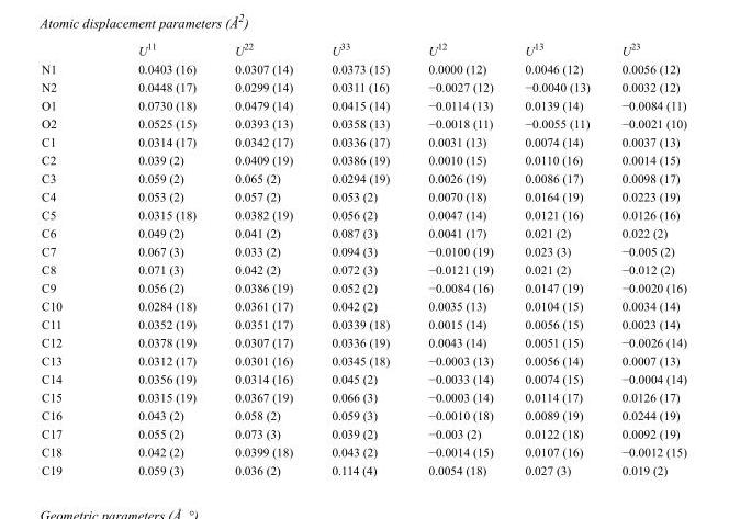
<table><thead><tr><td></td><td>U<sup>11</sup></td><td>U<sup>22</sup></td><td>U<sup>33</sup></td><td>U<sup>12</sup></td><td>U<sup>13</sup></td><td>U<sup>23</sup></td></tr></thead><tbody><tr><td>N1</td><td>0.0403 (16)</td><td>0.0307 (14)</td><td>0.0373 (15)</td><td>0.0000 (12)</td><td>0.0046 (12)</td><td>0.0056 (12)</td></tr><tr><td>N2</td><td>0.0448 (17)</td><td>0.0299 (14)</td><td>0.0311 (16)</td><td>−0.0027 (12)</td><td>−0.0040 (13)</td><td>0.0032 (12)</td></tr><tr><td>O1</td><td>0.0730 (18)</td><td>0.0479 (14)</td><td>0.0415 (14)</td><td>−0.0114 (13)</td><td>0.0139 (14)</td><td>−0.0084 (11)</td></tr><tr><td>O2</td><td>0.0525 (15)</td><td>0.0393 (13)</td><td>0.0358 (13)</td><td>−0.0018 (11)</td><td>−0.0055 (11)</td><td>−0.0021 (10)</td></tr><tr><td>C1</td><td>0.0314 (17)</td><td>0.0342 (17)</td><td>0.0336 (17)</td><td>0.0031 (13)</td><td>0.0074 (14)</td><td>0.0037 (13)</td></tr><tr><td>C2</td><td>0.039 (2)</td><td>0.0409 (19)</td><td>0.0386 (19)</td><td>0.0010 (15)</td><td>0.0110 (16)</td><td>0.0014 (15)</td></tr><tr><td>C3</td><td>0.059 (2)</td><td>0.065 (2)</td><td>0.0294 (19)</td><td>0.0026 (19)</td><td>0.0086 (17)</td><td>0.0098 (17)</td></tr><tr><td>C4</td><td>0.053 (2)</td><td>0.057 (2)</td><td>0.053 (2)</td><td>0.0070 (18)</td><td>0.0164 (19)</td><td>0.0223 (19)</td></tr><tr><td>C5</td><td>0.0315 (18)</td><td>0.0382 (19)</td><td>0.056 (2)</td><td>0.0047 (14)</td><td>0.0121 (16)</td><td>0.0126 (16)</td></tr><tr><td>C6</td><td>0.049 (2)</td><td>0.041 (2)</td><td>0.087 (3)</td><td>0.0041 (17)</td><td>0.021 (2)</td><td>0.022 (2)</td></tr><tr><td>C7</td><td>0.067 (3)</td><td>0.033 (2)</td><td>0.094 (3)</td><td>−0.0100 (19)</td><td>0.023 (3)</td><td>−0.005 (2)</td></tr><tr><td>C8</td><td>0.071 (3)</td><td>0.042 (2)</td><td>0.072 (3)</td><td>−0.0121 (19)</td><td>0.021 (2)</td><td>−0.012 (2)</td></tr><tr><td>C9</td><td>0.056 (2)</td><td>0.0386 (19)</td><td>0.052 (2)</td><td>−0.0084 (16)</td><td>0.0147 (19)</td><td>−0.0020 (16)</td></tr><tr><td>C10</td><td>0.0284 (18)</td><td>0.0361 (17)</td><td>0.042 (2)</td><td>0.0035 (13)</td><td>0.0104 (15)</td><td>0.0034 (14)</td></tr><tr><td>C11</td><td>0.0352 (19)</td><td>0.0351 (17)</td><td>0.0339 (18)</td><td>0.0015 (14)</td><td>0.0056 (15)</td><td>0.0023 (14)</td></tr><tr><td>C12</td><td>0.0378 (19)</td><td>0.0307 (17)</td><td>0.0336 (19)</td><td>0.0043 (14)</td><td>0.0051 (15)</td><td>−0.0026 (14)</td></tr><tr><td>C13</td><td>0.0312 (17)</td><td>0.0301 (16)</td><td>0.0345 (18)</td><td>−0.0003 (13)</td><td>0.0056 (14)</td><td>0.0007 (13)</td></tr><tr><td>C14</td><td>0.0356 (19)</td><td>0.0314 (16)</td><td>0.045 (2)</td><td>−0.0033 (14)</td><td>0.0074 (15)</td><td>−0.0004 (14)</td></tr><tr><td>C15</td><td>0.0315 (19)</td><td>0.0367 (19)</td><td>0.066 (3)</td><td>−0.0003 (14)</td><td>0.0114 (17)</td><td>0.0126 (17)</td></tr><tr><td>C16</td><td>0.043 (2)</td><td>0.058 (2)</td><td>0.059 (3)</td><td>−0.0010 (18)</td><td>0.0089 (19)</td><td>0.0244 (19)</td></tr><tr><td>C17</td><td>0.055 (2)</td><td>0.073 (3)</td><td>0.039 (2)</td><td>−0.003 (2)</td><td>0.0122 (18)</td><td>0.0092 (19)</td></tr><tr><td>C18</td><td>0.042 (2)</td><td>0.0399 (18)</td><td>0.043 (2)</td><td>−0.0014 (15)</td><td>0.0107 (16)</td><td>−0.0012 (15)</td></tr><tr><td>C19</td><td>0.059 (3)</td><td>0.036 (2)</td><td>0.114 (4)</td><td>0.0054 (18)</td><td>0.027 (3)</td><td>0.019 (2)</td></tr></tbody></table>